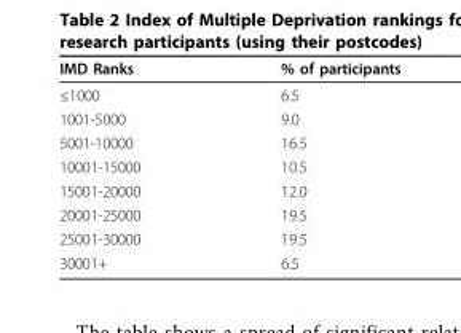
<table><thead><tr><td>IMD Ranks</td><td>% of participants</td></tr></thead><tbody><tr><td>≤1000</td><td>6.5</td></tr><tr><td>1001-5000</td><td>9.0</td></tr><tr><td>5001-10000</td><td>16.5</td></tr><tr><td>10001-15000</td><td>10.5</td></tr><tr><td>15001-20000</td><td>12.0</td></tr><tr><td>20001-25000</td><td>19.5</td></tr><tr><td>25001-30000</td><td>19.5</td></tr><tr><td>30001+</td><td>6.5</td></tr></tbody></table>